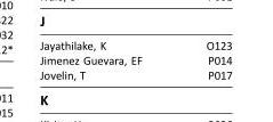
<table><tbody><tr><td>Jayathilake, K</td><td>O123</td></tr><tr><td>Jimenez Guevara, EF</td><td>P014</td></tr><tr><td>Jovelin, T</td><td>P017</td></tr></tbody></table>